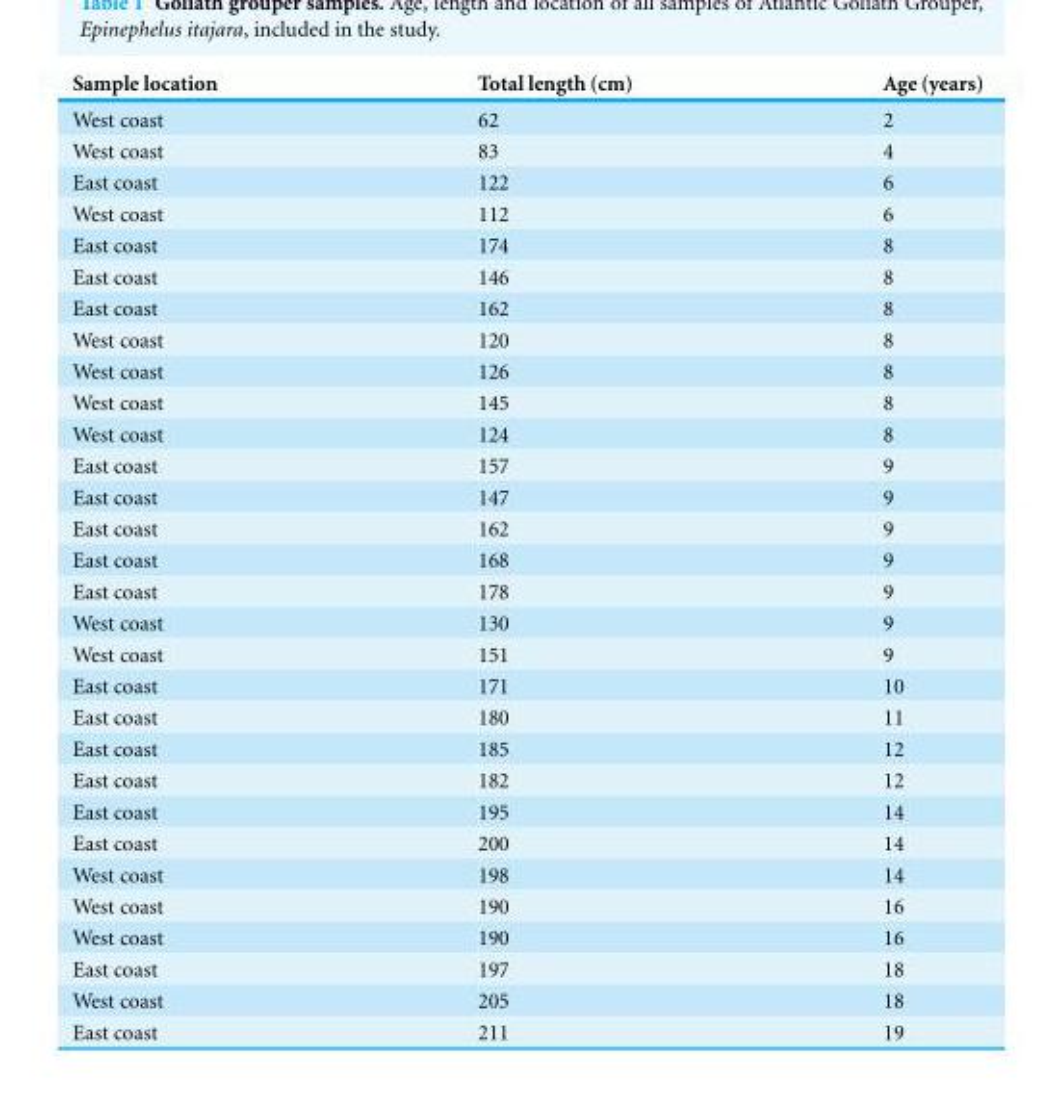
<table><thead><tr><td>Sample location</td><td>Total length (cm)</td><td>Age (years)</td></tr></thead><tbody><tr><td>West coast</td><td>62</td><td>2</td></tr><tr><td>West coast</td><td>83</td><td>4</td></tr><tr><td>East coast</td><td>122</td><td>6</td></tr><tr><td>West coast</td><td>112</td><td>6</td></tr><tr><td>East coast</td><td>174</td><td>8</td></tr><tr><td>East coast</td><td>146</td><td>8</td></tr><tr><td>East coast</td><td>162</td><td>8</td></tr><tr><td>West coast</td><td>120</td><td>8</td></tr><tr><td>West coast</td><td>126</td><td>8</td></tr><tr><td>West coast</td><td>145</td><td>8</td></tr><tr><td>West coast</td><td>124</td><td>8</td></tr><tr><td>East coast</td><td>157</td><td>9</td></tr><tr><td>East coast</td><td>147</td><td>9</td></tr><tr><td>East coast</td><td>162</td><td>9</td></tr><tr><td>East coast</td><td>168</td><td>9</td></tr><tr><td>East coast</td><td>178</td><td>9</td></tr><tr><td>West coast</td><td>130</td><td>9</td></tr><tr><td>West coast</td><td>151</td><td>9</td></tr><tr><td>East coast</td><td>171</td><td>10</td></tr><tr><td>East coast</td><td>180</td><td>11</td></tr><tr><td>East coast</td><td>185</td><td>12</td></tr><tr><td>East coast</td><td>182</td><td>12</td></tr><tr><td>East coast</td><td>195</td><td>14</td></tr><tr><td>East coast</td><td>200</td><td>14</td></tr><tr><td>West coast</td><td>198</td><td>14</td></tr><tr><td>West coast</td><td>190</td><td>16</td></tr><tr><td>West coast</td><td>190</td><td>16</td></tr><tr><td>East coast</td><td>197</td><td>18</td></tr><tr><td>West coast</td><td>205</td><td>18</td></tr><tr><td>East coast</td><td>211</td><td>19</td></tr></tbody></table>